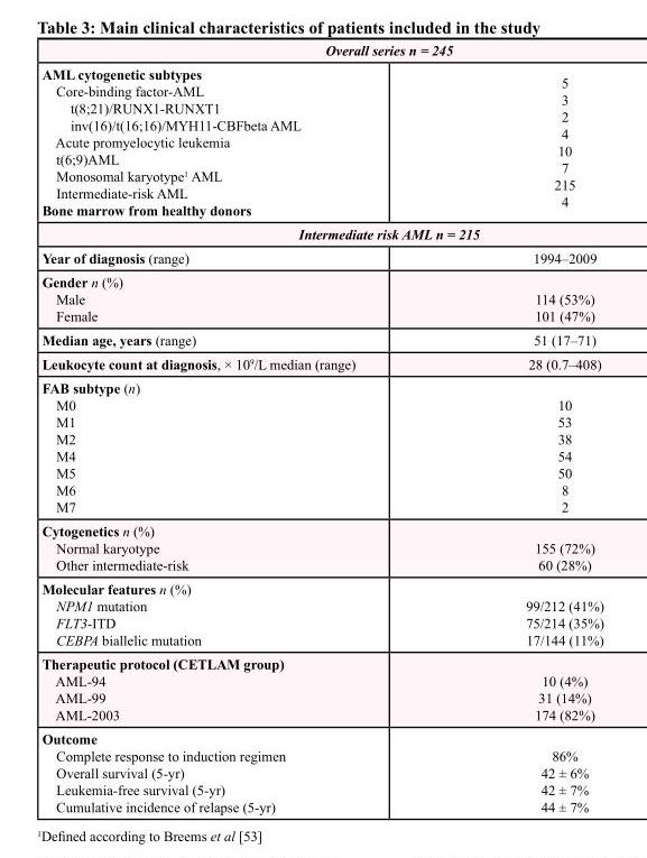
<table><tbody><tr><td colspan="2">Overall series n = 245</td></tr><tr><td>AML cytogenetic subtypes Core-binding factor-AML t(8;21)/RUNX1-RUNXT1 inv(16)/t(16;16)/MYH11-CBFbeta AML Acute promyelocytic leukemia t(6;9)AML Monosomal karyotype<sup>1</sup> AML Intermediate-risk AML Bone marrow from healthy donors</td><td>5 3 2 4 10 7 215 4</td></tr><tr><td colspan="2">Intermediate risk AML n = 215</td></tr><tr><td>Year of diagnosis (range)</td><td>1994–2009</td></tr><tr><td>Gender n (%) Male Female</td><td>114 (53%) 101 (47%)</td></tr><tr><td>Median age, years (range)</td><td>51 (17–71)</td></tr><tr><td>Leukocyte count at diagnosis, × 10<sup>9</sup>/L median (range)</td><td>28 (0.7–408)</td></tr><tr><td>FAB subtype (n) M0 M1 M2 M4 M5 M6 M7</td><td>10 53 38 54 50 8 2</td></tr><tr><td>Cytogenetics n (%) Normal karyotype Other intermediate-risk</td><td>155 (72%) 60 (28%)</td></tr><tr><td>Molecular features n (%) NPM1 mutation FLT3-ITD CEBPA biallelic mutation</td><td>99/212 (41%) 75/214 (35%) 17/144 (11%)</td></tr><tr><td>Therapeutic protocol (CETLAM group) AML-94 AML-99 AML-2003</td><td>10 (4%) 31 (14%) 174 (82%)</td></tr><tr><td>Outcome Complete response to induction regimen Overall survival (5-yr) Leukemia-free survival (5-yr) Cumulative incidence of relapse (5-yr)</td><td>86% 42 ± 6% 42 ± 7% 44 ± 7%</td></tr></tbody></table>